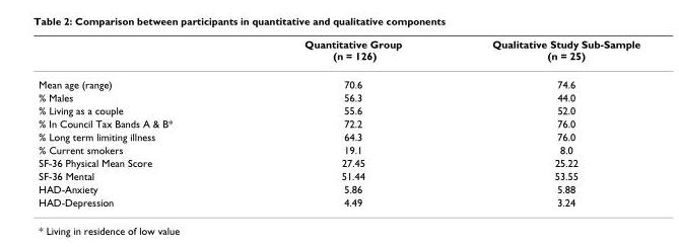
<table><thead><tr><td></td><td>Quantitative Group (n = 126)</td><td>Qualitative Study Sub-Sample (n = 25)</td></tr></thead><tbody><tr><td>Mean age (range)</td><td>70.6</td><td>74.6</td></tr><tr><td>% Males</td><td>56.3</td><td>44.0</td></tr><tr><td>% Living as a couple</td><td>55.6</td><td>52.0</td></tr><tr><td>% In Council Tax Bands A &amp; B*</td><td>72.2</td><td>76.0</td></tr><tr><td>% Long term limiting illness</td><td>64.3</td><td>76.0</td></tr><tr><td>% Current smokers</td><td>19.1</td><td>8.0</td></tr><tr><td>SF-36 Physical Mean Score</td><td>27.45</td><td>25.22</td></tr><tr><td>SF-36 Mental</td><td>51.44</td><td>53.55</td></tr><tr><td>HAD-Anxiety</td><td>5.86</td><td>5.88</td></tr><tr><td>HAD-Depression</td><td>4.49</td><td>3.24</td></tr></tbody></table>